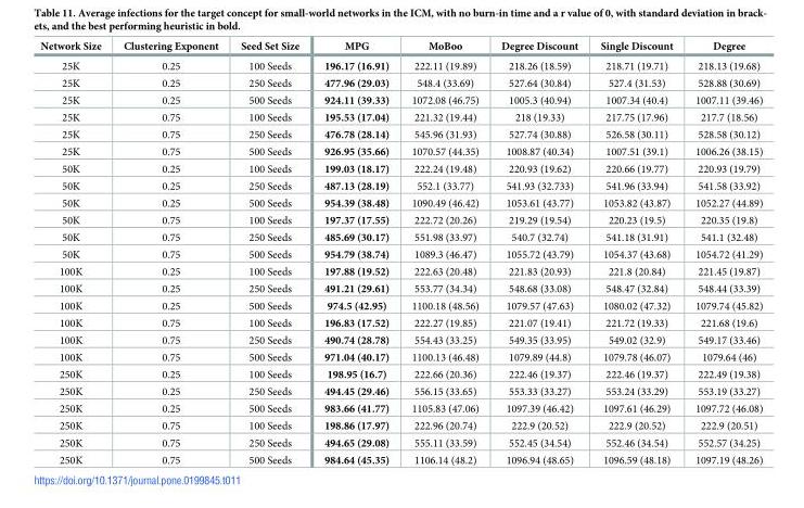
<table><thead><tr><td>Network Size</td><td>Clustering Exponent</td><td>Seed Set Size</td><td>MPG</td><td>MoBoo</td><td>Degree Discount</td><td>Single Discount</td><td>Degree</td></tr></thead><tbody><tr><td>25K</td><td>0.25</td><td>100 Seeds</td><td>196.17 (16.91)</td><td>222.11 (19.89)</td><td>218.26 (18.59)</td><td>218.71 (19.71)</td><td>218.13 (19.68)</td></tr><tr><td>25K</td><td>0.25</td><td>250 Seeds</td><td>477.96 (29.03)</td><td>548.4 (33.69)</td><td>527.64 (30.84)</td><td>527.4 (31.53)</td><td>528.88 (30.69)</td></tr><tr><td>25K</td><td>0.25</td><td>500 Seeds</td><td>924.11 (39.33)</td><td>1072.08 (46.75)</td><td>1005.3 (40.94)</td><td>1007.34 (40.4)</td><td>1007.11 (39.46)</td></tr><tr><td>25K</td><td>0.75</td><td>100 Seeds</td><td>195.53 (17.04)</td><td>221.32 (19.44)</td><td>218 (19.33)</td><td>217.75 (17.96)</td><td>217.7 (18.56)</td></tr><tr><td>25K</td><td>0.75</td><td>250 Seeds</td><td>476.78 (28.14)</td><td>545.96 (31.93)</td><td>527.74 (30.88)</td><td>526.58 (30.11)</td><td>528.58 (30.12)</td></tr><tr><td>25K</td><td>0.75</td><td>500 Seeds</td><td>926.95 (35.66)</td><td>1070.57 (44.35)</td><td>1008.87 (40.34)</td><td>1007.51 (39.1)</td><td>1006.26 (38.15)</td></tr><tr><td>50K</td><td>0.25</td><td>100 Seeds</td><td>199.03 (18.17)</td><td>222.24 (19.48)</td><td>220.93 (19.62)</td><td>220.66 (19.77)</td><td>220.93 (19.79)</td></tr><tr><td>50K</td><td>0.25</td><td>250 Seeds</td><td>487.13 (28.19)</td><td>552.1 (33.77)</td><td>541.93 (32.733)</td><td>541.96 (33.94)</td><td>541.58 (33.92)</td></tr><tr><td>50K</td><td>0.25</td><td>500 Seeds</td><td>954.39 (38.48)</td><td>1090.49 (46.42)</td><td>1053.61 (43.77)</td><td>1053.82 (43.87)</td><td>1052.27 (44.89)</td></tr><tr><td>50K</td><td>0.75</td><td>100 Seeds</td><td>197.37 (17.55)</td><td>222.72 (20.26)</td><td>219.29 (19.54)</td><td>220.23 (19.5)</td><td>220.35 (19.8)</td></tr><tr><td>50K</td><td>0.75</td><td>250 Seeds</td><td>485.69 (30.17)</td><td>551.98 (33.97)</td><td>540.7 (32.74)</td><td>541.18 (31.91)</td><td>541.1 (32.48)</td></tr><tr><td>50K</td><td>0.75</td><td>500 Seeds</td><td>954.79 (38.74)</td><td>1089.3 (46.47)</td><td>1055.72 (43.79)</td><td>1054.37 (43.68)</td><td>1054.72 (41.29)</td></tr><tr><td>100K</td><td>0.25</td><td>100 Seeds</td><td>197.88 (19.52)</td><td>222.63 (20.48)</td><td>221.83 (20.93)</td><td>221.8 (20.84)</td><td>221.45 (19.87)</td></tr><tr><td>100K</td><td>0.25</td><td>250 Seeds</td><td>491.21 (29.61)</td><td>553.77 (34.34)</td><td>548.68 (33.08)</td><td>548.47 (32.84)</td><td>548.44 (33.39)</td></tr><tr><td>100K</td><td>0.25</td><td>500 Seeds</td><td>974.5 (42.95)</td><td>1100.18 (48.56)</td><td>1079.57 (47.63)</td><td>1080.02 (47.32)</td><td>1079.74 (45.82)</td></tr><tr><td>100K</td><td>0.75</td><td>100 Seeds</td><td>196.83 (17.52)</td><td>222.27 (19.85)</td><td>221.07 (19.41)</td><td>221.72 (19.33)</td><td>221.68 (19.6)</td></tr><tr><td>100K</td><td>0.75</td><td>250 Seeds</td><td>490.74 (28.78)</td><td>554.43 (33.25)</td><td>549.35 (33.95)</td><td>549.02 (32.9)</td><td>549.17 (33.46)</td></tr><tr><td>100K</td><td>0.75</td><td>500 Seeds</td><td>971.04 (40.17)</td><td>1100.13 (46.48)</td><td>1079.89 (44.8)</td><td>1079.78 (46.07)</td><td>1079.64 (46)</td></tr><tr><td>250K</td><td>0.25</td><td>100 Seeds</td><td>198.95 (16.7)</td><td>222.66 (20.36)</td><td>222.46 (19.37)</td><td>222.46 (19.37)</td><td>222.49 (19.38)</td></tr><tr><td>250K</td><td>0.25</td><td>250 Seeds</td><td>494.45 (29.46)</td><td>556.15 (33.65)</td><td>553.33 (33.27)</td><td>553.24 (33.29)</td><td>553.19 (33.27)</td></tr><tr><td>250K</td><td>0.25</td><td>500 Seeds</td><td>983.66 (41.77)</td><td>1105.83 (47.06)</td><td>1097.39 (46.42)</td><td>1097.61 (46.29)</td><td>1097.72 (46.08)</td></tr><tr><td>250K</td><td>0.75</td><td>100 Seeds</td><td>198.86 (17.97)</td><td>222.96 (20.74)</td><td>222.9 (20.52)</td><td>222.9 (20.52)</td><td>222.9 (20.51)</td></tr><tr><td>250K</td><td>0.75</td><td>250 Seeds</td><td>494.65 (29.08)</td><td>555.11 (33.59)</td><td>552.45 (34.54)</td><td>552.46 (34.54)</td><td>552.57 (34.25)</td></tr><tr><td>250K</td><td>0.75</td><td>500 Seeds</td><td>984.64 (45.35)</td><td>1106.14 (48.2)</td><td>1096.94 (48.65)</td><td>1096.59 (48.18)</td><td>1097.19 (48.26)</td></tr></tbody></table>